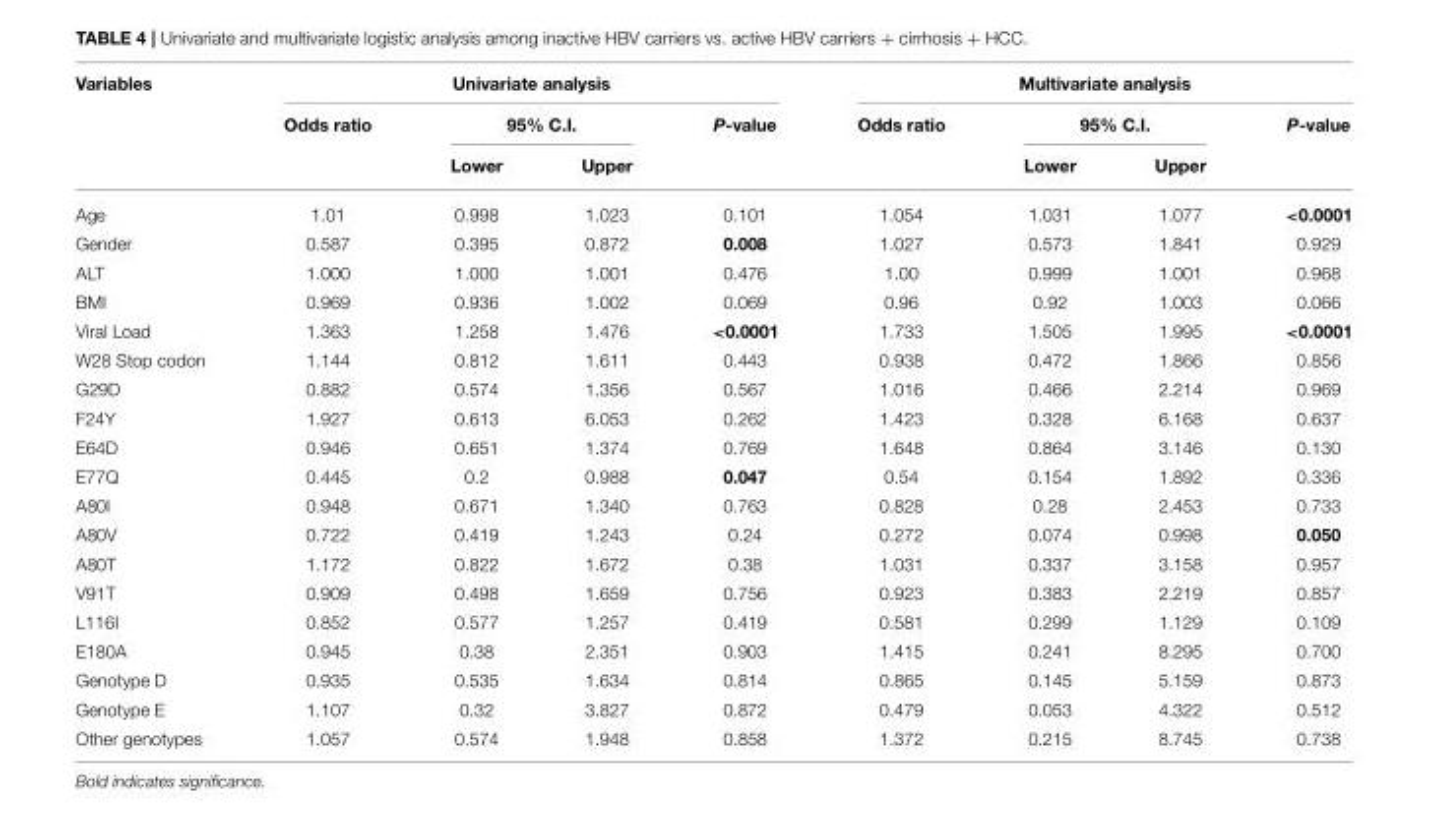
<table><thead><tr><td rowspan="3">Variables</td><td colspan="4">Univariate analysis</td><td colspan="4">Multivariate analysis</td></tr><tr><td rowspan="2">Odds ratio</td><td colspan="2">95% C.I.</td><td rowspan="2">P-value</td><td rowspan="2">Odds ratio</td><td colspan="2">95% C.I.</td><td rowspan="2">P-value</td></tr><tr><td>Lower</td><td>Upper</td><td>Lower</td><td>Upper</td></tr></thead><tbody><tr><td>Age</td><td>1.01</td><td>0.998</td><td>1.023</td><td>0.101</td><td>1.054</td><td>1.031</td><td>1.077</td><td>&lt;0.0001</td></tr><tr><td>Gender</td><td>0.587</td><td>0.395</td><td>0.872</td><td>0.008</td><td>1.027</td><td>0.573</td><td>1.841</td><td>0.929</td></tr><tr><td>ALT</td><td>1.000</td><td>1.000</td><td>1.001</td><td>0.476</td><td>1.00</td><td>0.999</td><td>1.001</td><td>0.968</td></tr><tr><td>BMI</td><td>0.969</td><td>0.936</td><td>1.002</td><td>0.069</td><td>0.96</td><td>0.92</td><td>1.003</td><td>0.066</td></tr><tr><td>Viral Load</td><td>1.363</td><td>1.258</td><td>1.476</td><td>&lt;0.0001</td><td>1.733</td><td>1.505</td><td>1.995</td><td>&lt;0.0001</td></tr><tr><td>W28 Stop codon</td><td>1.144</td><td>0.812</td><td>1.611</td><td>0.443</td><td>0.938</td><td>0.472</td><td>1.866</td><td>0.856</td></tr><tr><td>G29D</td><td>0.882</td><td>0.574</td><td>1.356</td><td>0.567</td><td>1.016</td><td>0.466</td><td>2.214</td><td>0.969</td></tr><tr><td>F24Y</td><td>1.927</td><td>0.613</td><td>6.053</td><td>0.262</td><td>1.423</td><td>0.328</td><td>6.168</td><td>0.637</td></tr><tr><td>E64D</td><td>0.946</td><td>0.651</td><td>1.374</td><td>0.769</td><td>1.648</td><td>0.864</td><td>3.146</td><td>0.130</td></tr><tr><td>E77Q</td><td>0.445</td><td>0.2</td><td>0.988</td><td>0.047</td><td>0.54</td><td>0.154</td><td>1.892</td><td>0.336</td></tr><tr><td>A80I</td><td>0.948</td><td>0.671</td><td>1.340</td><td>0.763</td><td>0.828</td><td>0.28</td><td>2.453</td><td>0.733</td></tr><tr><td>A80V</td><td>0.722</td><td>0.419</td><td>1.243</td><td>0.24</td><td>0.272</td><td>0.074</td><td>0.998</td><td>0.050</td></tr><tr><td>A80T</td><td>1.172</td><td>0.822</td><td>1.672</td><td>0.38</td><td>1.031</td><td>0.337</td><td>3.158</td><td>0.957</td></tr><tr><td>V91T</td><td>0.909</td><td>0.498</td><td>1.659</td><td>0.756</td><td>0.923</td><td>0.383</td><td>2.219</td><td>0.857</td></tr><tr><td>L116I</td><td>0.852</td><td>0.577</td><td>1.257</td><td>0.419</td><td>0.581</td><td>0.299</td><td>1.129</td><td>0.109</td></tr><tr><td>E180A</td><td>0.945</td><td>0.38</td><td>2.351</td><td>0.903</td><td>1.415</td><td>0.241</td><td>8.295</td><td>0.700</td></tr><tr><td>Genotype D</td><td>0.935</td><td>0.535</td><td>1.634</td><td>0.814</td><td>0.865</td><td>0.145</td><td>5.159</td><td>0.873</td></tr><tr><td>Genotype E</td><td>1.107</td><td>0.32</td><td>3.827</td><td>0.872</td><td>0.479</td><td>0.053</td><td>4.322</td><td>0.512</td></tr><tr><td>Other genotypes</td><td>1.057</td><td>0.574</td><td>1.948</td><td>0.858</td><td>1.372</td><td>0.215</td><td>8.745</td><td>0.738</td></tr></tbody></table>